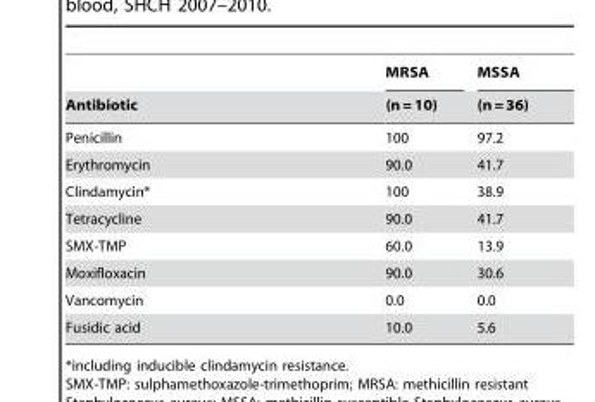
<table><thead><tr><td rowspan="2">Antibiotic</td><td rowspan="2">MRSA (n = 10)</td><td rowspan="2">MSSA (n = 36)</td></tr><tr></tr></thead><tbody><tr><td>Penicillin</td><td>100</td><td>97.2</td></tr><tr><td>Erythromycin</td><td>90.0</td><td>41.7</td></tr><tr><td>Clindamycin*</td><td>100</td><td>38.9</td></tr><tr><td>Tetracycline</td><td>90.0</td><td>41.7</td></tr><tr><td>SMX-TMP</td><td>60.0</td><td>13.9</td></tr><tr><td>Moxifloxacin</td><td>90.0</td><td>30.6</td></tr><tr><td>Vancomycin</td><td>0.0</td><td>0.0</td></tr><tr><td>Fusidic acid</td><td>10.0</td><td>5.6</td></tr></tbody></table>